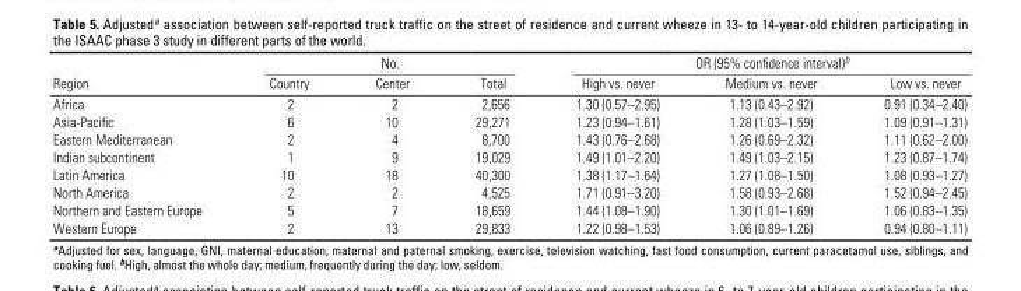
<table><thead><tr><td rowspan="2">Region</td><td colspan="3">No.</td><td colspan="3">OR (95% confidence interval)<sup>b</sup></td></tr><tr><td>Country</td><td>Center</td><td>Total</td><td>High vs. never</td><td>Medium vs. never</td><td>Low vs. never</td></tr></thead><tbody><tr><td>Africa</td><td>2</td><td>2</td><td>2,656</td><td>1.30 (0.57–2.95)</td><td>1.13 (0.43–2.92)</td><td>0.91 (0.34–2.40)</td></tr><tr><td>Asia-Pacific</td><td>6</td><td>10</td><td>29,271</td><td>1.23 (0.94–1.61)</td><td>1.28 (1.03–1.59)</td><td>1.09 (0.91–1.31)</td></tr><tr><td>Eastern Mediterranean</td><td>2</td><td>4</td><td>8,700</td><td>1.43 (0.76–2.68)</td><td>1.26 (0.69–2.32)</td><td>1.11 (0.62–2.00)</td></tr><tr><td>Indian subcontinent</td><td>1</td><td>9</td><td>19,029</td><td>1.49 (1.01–2.20)</td><td>1.49 (1.03–2.15)</td><td>1.23 (0.87–1.74)</td></tr><tr><td>Latin America</td><td>10</td><td>18</td><td>40,300</td><td>1.38 (1.17–1.64)</td><td>1.27 (1.08–1.50)</td><td>1.08 (0.93–1.27)</td></tr><tr><td>North America</td><td>2</td><td>2</td><td>4,525</td><td>1.71 (0.91–3.20)</td><td>1.58 (0.93–2.68)</td><td>1.52 (0.94–2.45)</td></tr><tr><td>Northern and Eastern Europe</td><td>5</td><td>7</td><td>18,659</td><td>1.44 (1.08–1.90)</td><td>1.30 (1.01–1.69)</td><td>1.06 (0.83–1.35)</td></tr><tr><td>Western Europe</td><td>2</td><td>13</td><td>29,833</td><td>1.22 (0.98–1.53)</td><td>1.06 (0.89–1.26)</td><td>0.94 (0.80–1.11)</td></tr></tbody></table>